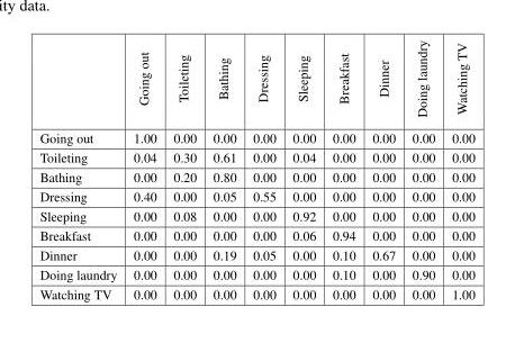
<table><thead><tr><td></td><td>Going out</td><td>Toileting</td><td>Bathing</td><td>Dressing</td><td>Sleeping</td><td>Breakfast</td><td>Dinner</td><td>Doing laundry</td><td>Watching TV</td></tr></thead><tbody><tr><td>Going out</td><td>1.00</td><td>0.00</td><td>0.00</td><td>0.00</td><td>0.00</td><td>0.00</td><td>0.00</td><td>0.00</td><td>0.00</td></tr><tr><td>Toileting</td><td>0.04</td><td>0.30</td><td>0.61</td><td>0.00</td><td>0.04</td><td>0.00</td><td>0.00</td><td>0.00</td><td>0.00</td></tr><tr><td>Bathing</td><td>0.00</td><td>0.20</td><td>0.80</td><td>0.00</td><td>0.00</td><td>0.00</td><td>0.00</td><td>0.00</td><td>0.00</td></tr><tr><td>Dressing</td><td>0.40</td><td>0.00</td><td>0.05</td><td>0.55</td><td>0.00</td><td>0.00</td><td>0.00</td><td>0.00</td><td>0.00</td></tr><tr><td>Sleeping</td><td>0.00</td><td>0.08</td><td>0.00</td><td>0.00</td><td>0.92</td><td>0.00</td><td>0.00</td><td>0.00</td><td>0.00</td></tr><tr><td>Breakfast</td><td>0.00</td><td>0.00</td><td>0.00</td><td>0.00</td><td>0.06</td><td>0.94</td><td>0.00</td><td>0.00</td><td>0.00</td></tr><tr><td>Dinner</td><td>0.00</td><td>0.00</td><td>0.19</td><td>0.05</td><td>0.00</td><td>0.10</td><td>0.67</td><td>0.00</td><td>0.00</td></tr><tr><td>Doing laundry</td><td>0.00</td><td>0.00</td><td>0.00</td><td>0.00</td><td>0.00</td><td>0.10</td><td>0.00</td><td>0.90</td><td>0.00</td></tr><tr><td>Watching TV</td><td>0.00</td><td>0.00</td><td>0.00</td><td>0.00</td><td>0.00</td><td>0.00</td><td>0.00</td><td>0.00</td><td>1.00</td></tr></tbody></table>